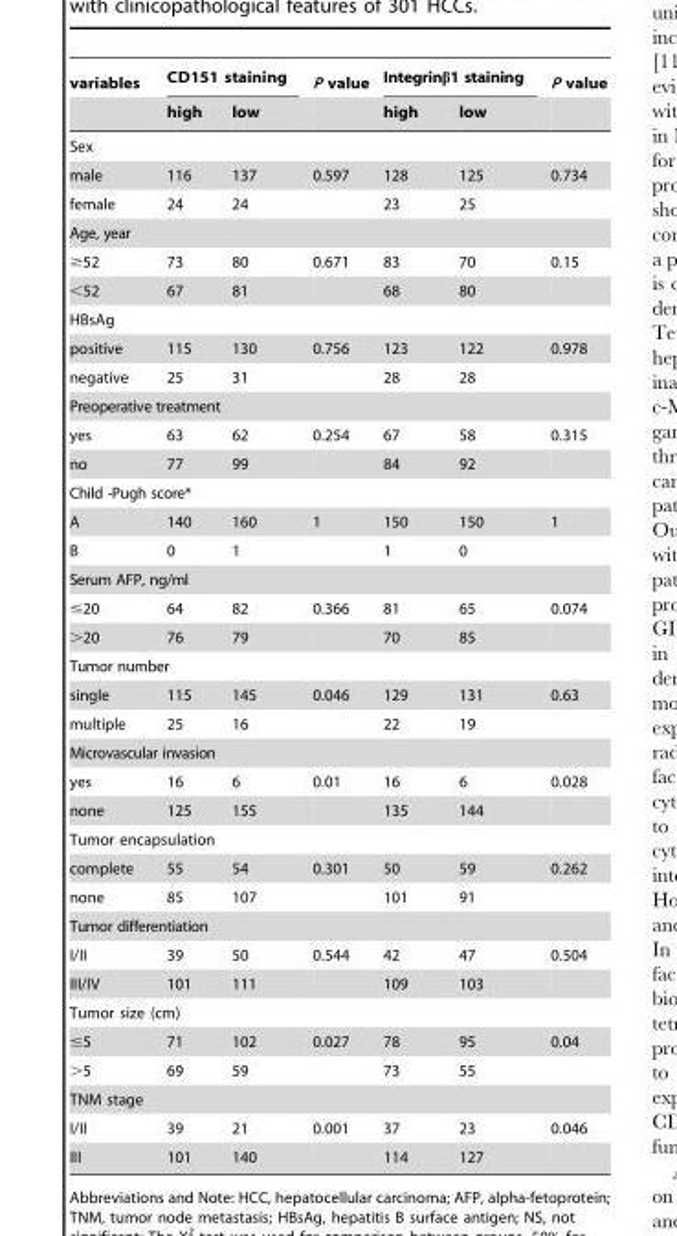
<table><thead><tr><td rowspan="2">variables</td><td colspan="2">CD151 staining</td><td rowspan="2">P value</td><td colspan="2">Integrinβ1 staining</td><td rowspan="2">P value</td></tr><tr><td>high</td><td>low</td><td>high</td><td>low</td></tr></thead><tbody><tr><td colspan="7">Sex</td></tr><tr><td>male</td><td>116</td><td>137</td><td>0.597</td><td>128</td><td>125</td><td>0.734</td></tr><tr><td>female</td><td>24</td><td>24</td><td></td><td>23</td><td>25</td><td></td></tr><tr><td colspan="7">Age, year</td></tr><tr><td>≥52</td><td>73</td><td>80</td><td>0.671</td><td>83</td><td>70</td><td>0.15</td></tr><tr><td>&lt;52</td><td>67</td><td>81</td><td></td><td>68</td><td>80</td><td></td></tr><tr><td colspan="7">HBsAg</td></tr><tr><td>positive</td><td>115</td><td>130</td><td>0.756</td><td>123</td><td>122</td><td>0.978</td></tr><tr><td>negative</td><td>25</td><td>31</td><td></td><td>28</td><td>28</td><td></td></tr><tr><td colspan="7">Preoperative treatment</td></tr><tr><td>yes</td><td>63</td><td>62</td><td>0.254</td><td>67</td><td>58</td><td>0.315</td></tr><tr><td>no</td><td>77</td><td>99</td><td></td><td>84</td><td>92</td><td></td></tr><tr><td colspan="7">Child -Pugh score*</td></tr><tr><td>A</td><td>140</td><td>160</td><td>1</td><td>150</td><td>150</td><td>1</td></tr><tr><td>B</td><td>0</td><td>1</td><td></td><td>1</td><td>0</td><td></td></tr><tr><td colspan="7">Serum AFP, ng/ml</td></tr><tr><td>≤20</td><td>64</td><td>82</td><td>0.366</td><td>81</td><td>65</td><td>0.074</td></tr><tr><td>&gt;20</td><td>76</td><td>79</td><td></td><td>70</td><td>85</td><td></td></tr><tr><td colspan="7">Tumor number</td></tr><tr><td>single</td><td>115</td><td>145</td><td>0.046</td><td>129</td><td>131</td><td>0.63</td></tr><tr><td>multiple</td><td>25</td><td>16</td><td></td><td>22</td><td>19</td><td></td></tr><tr><td colspan="7">Microvascular invasion</td></tr><tr><td>yes</td><td>16</td><td>6</td><td>0.01</td><td>16</td><td>6</td><td>0.028</td></tr><tr><td>none</td><td>125</td><td>155</td><td></td><td>135</td><td>144</td><td></td></tr><tr><td colspan="7">Tumor encapsulation</td></tr><tr><td>complete</td><td>55</td><td>54</td><td>0.301</td><td>50</td><td>59</td><td>0.262</td></tr><tr><td>none</td><td>85</td><td>107</td><td></td><td>101</td><td>91</td><td></td></tr><tr><td colspan="7">Tumor differentiation</td></tr><tr><td>I/II</td><td>39</td><td>50</td><td>0.544</td><td>42</td><td>47</td><td>0.504</td></tr><tr><td>III/IV</td><td>101</td><td>111</td><td></td><td>109</td><td>103</td><td></td></tr><tr><td colspan="7">Tumor size (cm)</td></tr><tr><td>≤5</td><td>71</td><td>102</td><td>0.027</td><td>78</td><td>95</td><td>0.04</td></tr><tr><td>&gt;5</td><td>69</td><td>59</td><td></td><td>73</td><td>55</td><td></td></tr><tr><td colspan="7">TNM stage</td></tr><tr><td>I/II</td><td>39</td><td>21</td><td>0.001</td><td>37</td><td>23</td><td>0.046</td></tr><tr><td>III</td><td>101</td><td>140</td><td></td><td>114</td><td>127</td><td></td></tr></tbody></table>